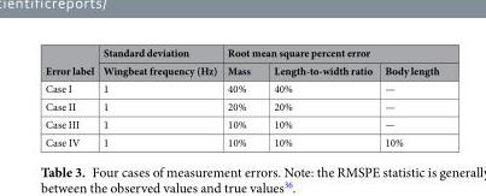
<table><thead><tr><td rowspan="2">Error label</td><td rowspan="2">Standard deviation Wingbeat frequency (Hz)</td><td colspan="3">Root mean square percent error</td></tr><tr><td>Mass</td><td>Length-to-width ratio</td><td>Body length</td></tr></thead><tbody><tr><td>Case I</td><td>1</td><td>40%</td><td>40%</td><td>—</td></tr><tr><td>Case II</td><td>1</td><td>20%</td><td>20%</td><td>—</td></tr><tr><td>Case III</td><td>1</td><td>10%</td><td>10%</td><td>—</td></tr><tr><td>Case IV</td><td>1</td><td>10%</td><td>10%</td><td>10%</td></tr></tbody></table>